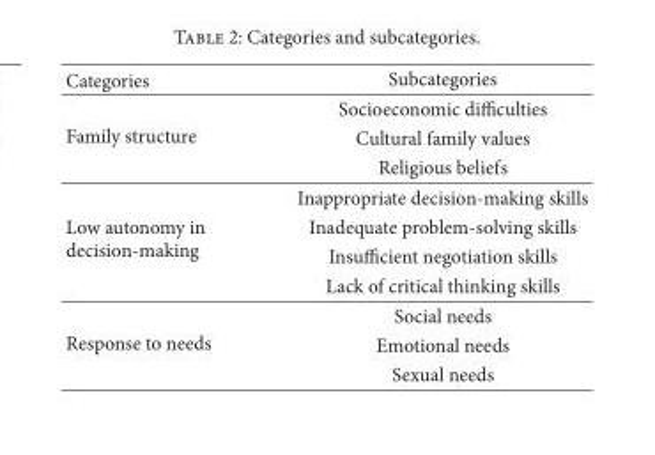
<table><thead><tr><td>Categories</td><td>Subcategories</td></tr></thead><tbody><tr><td rowspan="3">Family structure</td><td>Socioeconomic difficulties</td></tr><tr><td>Cultural family values</td></tr><tr><td>Religious beliefs</td></tr><tr><td rowspan="4">Low autonomy in decision-making</td><td>Inappropriate decision-making skills</td></tr><tr><td>Inadequate problem-solving skills</td></tr><tr><td>Insufficient negotiation skills</td></tr><tr><td>Lack of critical thinking skills</td></tr><tr><td rowspan="3">Response to needs</td><td>Social needs</td></tr><tr><td>Emotional needs</td></tr><tr><td>Sexual needs</td></tr></tbody></table>